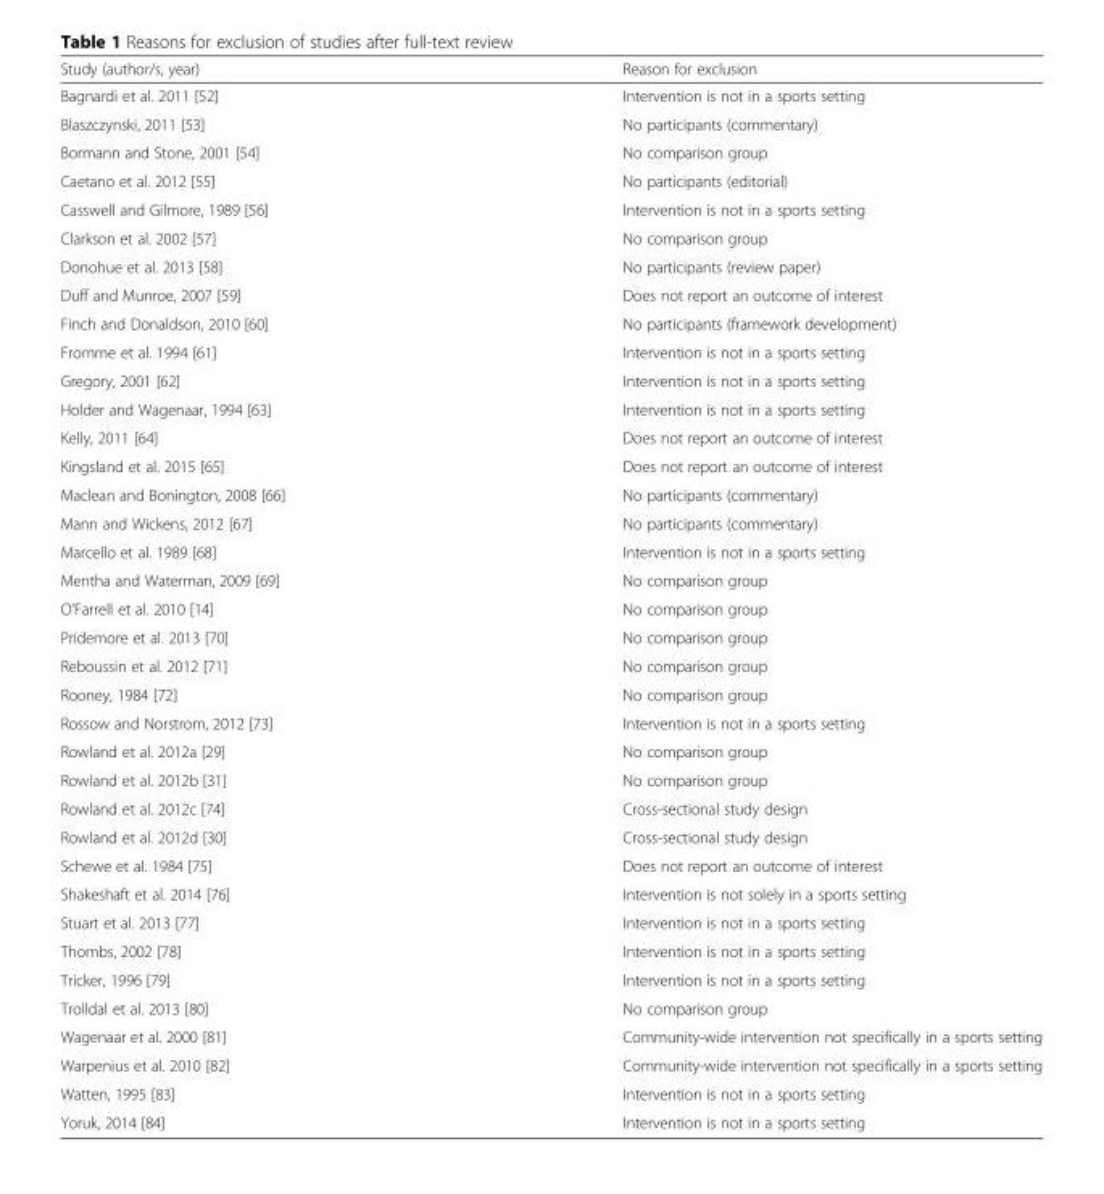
<table><thead><tr><td>Study (author/s, year)</td><td>Reason for exclusion</td></tr></thead><tbody><tr><td>Bagnardi et al. 2011 [52]</td><td>Intervention is not in a sports setting</td></tr><tr><td>Blaszczynski, 2011 [53]</td><td>No participants (commentary)</td></tr><tr><td>Bormann and Stone, 2001 [54]</td><td>No comparison group</td></tr><tr><td>Caetano et al. 2012 [55]</td><td>No participants (editorial)</td></tr><tr><td>Casswell and Gilmore, 1989 [56]</td><td>Intervention is not in a sports setting</td></tr><tr><td>Clarkson et al. 2002 [57]</td><td>No comparison group</td></tr><tr><td>Donohue et al. 2013 [58]</td><td>No participants (review paper)</td></tr><tr><td>Duff and Munroe, 2007 [59]</td><td>Does not report an outcome of interest</td></tr><tr><td>Finch and Donaldson, 2010 [60]</td><td>No participants (framework development)</td></tr><tr><td>Fromme et al. 1994 [61]</td><td>Intervention is not in a sports setting</td></tr><tr><td>Gregory, 2001 [62]</td><td>Intervention is not in a sports setting</td></tr><tr><td>Holder and Wagenaar, 1994 [63]</td><td>Intervention is not in a sports setting</td></tr><tr><td>Kelly, 2011 [64]</td><td>Does not report an outcome of interest</td></tr><tr><td>Kingsland et al. 2015 [65]</td><td>Does not report an outcome of interest</td></tr><tr><td>Maclean and Bonington, 2008 [66]</td><td>No participants (commentary)</td></tr><tr><td>Mann and Wickens, 2012 [67]</td><td>No participants (commentary)</td></tr><tr><td>Marcello et al. 1989 [68]</td><td>Intervention is not in a sports setting</td></tr><tr><td>Mentha and Waterman, 2009 [69]</td><td>No comparison group</td></tr><tr><td>O’Farrell et al. 2010 [14]</td><td>No comparison group</td></tr><tr><td>Pridemore et al. 2013 [70]</td><td>No comparison group</td></tr><tr><td>Reboussin et al. 2012 [71]</td><td>No comparison group</td></tr><tr><td>Rooney, 1984 [72]</td><td>No comparison group</td></tr><tr><td>Rossow and Norstrom, 2012 [73]</td><td>Intervention is not in a sports setting</td></tr><tr><td>Rowland et al. 2012a [29]</td><td>No comparison group</td></tr><tr><td>Rowland et al. 2012b [31]</td><td>No comparison group</td></tr><tr><td>Rowland et al. 2012c [74]</td><td>Cross-sectional study design</td></tr><tr><td>Rowland et al. 2012d [30]</td><td>Cross-sectional study design</td></tr><tr><td>Schewe et al. 1984 [75]</td><td>Does not report an outcome of interest</td></tr><tr><td>Shakeshaft et al. 2014 [76]</td><td>Intervention is not solely in a sports setting</td></tr><tr><td>Stuart et al. 2013 [77]</td><td>Intervention is not in a sports setting</td></tr><tr><td>Thombs, 2002 [78]</td><td>Intervention is not in a sports setting</td></tr><tr><td>Tricker, 1996 [79]</td><td>Intervention is not in a sports setting</td></tr><tr><td>Trolldal et al. 2013 [80]</td><td>No comparison group</td></tr><tr><td>Wagenaar et al. 2000 [81]</td><td>Community-wide intervention not specifically in a sports setting</td></tr><tr><td>Warpenius et al. 2010 [82]</td><td>Community-wide intervention not specifically in a sports setting</td></tr><tr><td>Watten, 1995 [83]</td><td>Intervention is not in a sports setting</td></tr><tr><td>Yoruk, 2014 [84]</td><td>Intervention is not in a sports setting</td></tr></tbody></table>